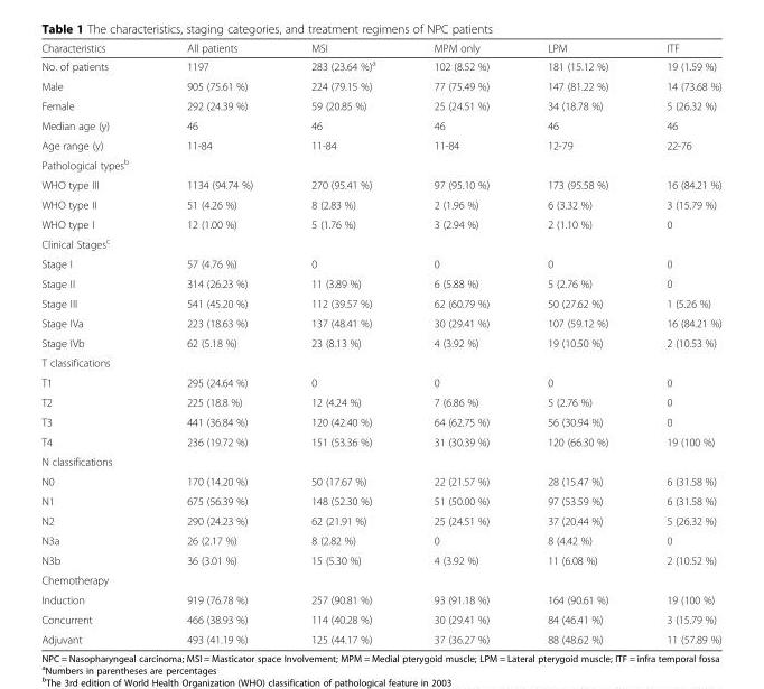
<table><thead><tr><td>Characteristics</td><td>All patients</td><td>MSI</td><td>MPM only</td><td>LPM</td><td>ITF</td></tr></thead><tbody><tr><td>No. of patients</td><td>1197</td><td>283 (23.64 %)<sup>a</sup></td><td>102 (8.52 %)</td><td>181 (15.12 %)</td><td>19 (1.59 %)</td></tr><tr><td>Male</td><td>905 (75.61 %)</td><td>224 (79.15 %)</td><td>77 (75.49 %)</td><td>147 (81.22 %)</td><td>14 (73.68 %)</td></tr><tr><td>Female</td><td>292 (24.39 %)</td><td>59 (20.85 %)</td><td>25 (24.51 %)</td><td>34 (18.78 %)</td><td>5 (26.32 %)</td></tr><tr><td>Median age (y)</td><td>46</td><td>46</td><td>46</td><td>46</td><td>46</td></tr><tr><td>Age range (y)</td><td>11-84</td><td>11-84</td><td>11-84</td><td>12-79</td><td>22-76</td></tr><tr><td colspan="6">Pathological types<sup>b</sup></td></tr><tr><td>WHO type III</td><td>1134 (94.74 %)</td><td>270 (95.41 %)</td><td>97 (95.10 %)</td><td>173 (95.58 %)</td><td>16 (84.21 %)</td></tr><tr><td>WHO type II</td><td>51 (4.26 %)</td><td>8 (2.83 %)</td><td>2 (1.96 %)</td><td>6 (3.32 %)</td><td>3 (15.79 %)</td></tr><tr><td>WHO type I</td><td>12 (1.00 %)</td><td>5 (1.76 %)</td><td>3 (2.94 %)</td><td>2 (1.10 %)</td><td>0</td></tr><tr><td colspan="6">Clinical Stages<sup>c</sup></td></tr><tr><td>Stage I</td><td>57 (4.76 %)</td><td>0</td><td>0</td><td>0</td><td>0</td></tr><tr><td>Stage II</td><td>314 (26.23 %)</td><td>11 (3.89 %)</td><td>6 (5.88 %)</td><td>5 (2.76 %)</td><td>0</td></tr><tr><td>Stage III</td><td>541 (45.20 %)</td><td>112 (39.57 %)</td><td>62 (60.79 %)</td><td>50 (27.62 %)</td><td>1 (5.26 %)</td></tr><tr><td>Stage IVa</td><td>223 (18.63 %)</td><td>137 (48.41 %)</td><td>30 (29.41 %)</td><td>107 (59.12 %)</td><td>16 (84.21 %)</td></tr><tr><td>Stage IVb</td><td>62 (5.18 %)</td><td>23 (8.13 %)</td><td>4 (3.92 %)</td><td>19 (10.50 %)</td><td>2 (10.53 %)</td></tr><tr><td colspan="6">T classifications</td></tr><tr><td>T1</td><td>295 (24.64 %)</td><td>0</td><td>0</td><td>0</td><td>0</td></tr><tr><td>T2</td><td>225 (18.8 %)</td><td>12 (4.24 %)</td><td>7 (6.86 %)</td><td>5 (2.76 %)</td><td>0</td></tr><tr><td>T3</td><td>441 (36.84 %)</td><td>120 (42.40 %)</td><td>64 (62.75 %)</td><td>56 (30.94 %)</td><td>0</td></tr><tr><td>T4</td><td>236 (19.72 %)</td><td>151 (53.36 %)</td><td>31 (30.39 %)</td><td>120 (66.30 %)</td><td>19 (100 %)</td></tr><tr><td colspan="6">N classifications</td></tr><tr><td>N0</td><td>170 (14.20 %)</td><td>50 (17.67 %)</td><td>22 (21.57 %)</td><td>28 (15.47 %)</td><td>6 (31.58 %)</td></tr><tr><td>N1</td><td>675 (56.39 %)</td><td>148 (52.30 %)</td><td>51 (50.00 %)</td><td>97 (53.59 %)</td><td>6 (31.58 %)</td></tr><tr><td>N2</td><td>290 (24.23 %)</td><td>62 (21.91 %)</td><td>25 (24.51 %)</td><td>37 (20.44 %)</td><td>5 (26.32 %)</td></tr><tr><td>N3a</td><td>26 (2.17 %)</td><td>8 (2.82 %)</td><td>0</td><td>8 (4.42 %)</td><td>0</td></tr><tr><td>N3b</td><td>36 (3.01 %)</td><td>15 (5.30 %)</td><td>4 (3.92 %)</td><td>11 (6.08 %)</td><td>2 (10.52 %)</td></tr><tr><td colspan="6">Chemotherapy</td></tr><tr><td>Induction</td><td>919 (76.78 %)</td><td>257 (90.81 %)</td><td>93 (91.18 %)</td><td>164 (90.61 %)</td><td>19 (100 %)</td></tr><tr><td>Concurrent</td><td>466 (38.93 %)</td><td>114 (40.28 %)</td><td>30 (29.41 %)</td><td>84 (46.41 %)</td><td>3 (15.79 %)</td></tr><tr><td>Adjuvant</td><td>493 (41.19 %)</td><td>125 (44.17 %)</td><td>37 (36.27 %)</td><td>88 (48.62 %)</td><td>11 (57.89 %)</td></tr></tbody></table>